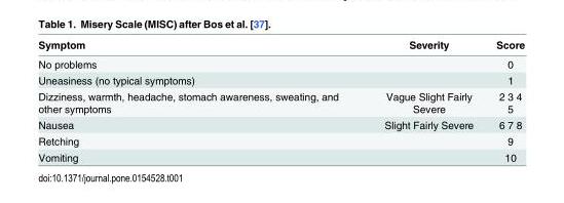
<table><thead><tr><td>Symptom</td><td>Severity</td><td>Score</td></tr></thead><tbody><tr><td>No problems</td><td></td><td>0</td></tr><tr><td>Uneasiness (no typical symptoms)</td><td></td><td>1</td></tr><tr><td>Dizziness, warmth, headache, stomach awareness, sweating, and other symptoms</td><td>Vague Slight Fairly Severe</td><td>2 3 4 5</td></tr><tr><td>Nausea</td><td>Slight Fairly Severe</td><td>6 7 8</td></tr><tr><td>Retching</td><td></td><td>9</td></tr><tr><td>Vomiting</td><td></td><td>10</td></tr></tbody></table>